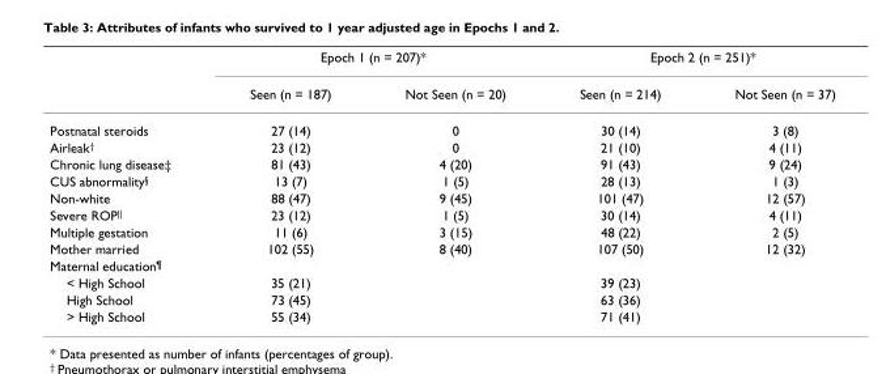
<table><thead><tr><td rowspan="2"></td><td colspan="2">Epoch 1 (n = 207)*</td><td colspan="2">Epoch 2 (n = 251)*</td></tr><tr><td>Seen (n = 187)</td><td>Not Seen (n = 20)</td><td>Seen (n = 214)</td><td>Not Seen (n = 37)</td></tr></thead><tbody><tr><td>Postnatal steroids</td><td>27 (14)</td><td>0</td><td>30 (14)</td><td>3 (8)</td></tr><tr><td>Airleak†</td><td>23 (12)</td><td>0</td><td>21 (10)</td><td>4 (11)</td></tr><tr><td>Chronic lung disease‡</td><td>81 (43)</td><td>4 (20)</td><td>91 (43)</td><td>9 (24)</td></tr><tr><td>CUS abnormality§</td><td>13 (7)</td><td>1 (5)</td><td>28 (13)</td><td>1 (3)</td></tr><tr><td>Non-white</td><td>88 (47)</td><td>9 (45)</td><td>101 (47)</td><td>12 (57)</td></tr><tr><td>Severe ROP||</td><td>23 (12)</td><td>1 (5)</td><td>30 (14)</td><td>4 (11)</td></tr><tr><td>Multiple gestation</td><td>11 (6)</td><td>3 (15)</td><td>48 (22)</td><td>2 (5)</td></tr><tr><td>Mother married</td><td>102 (55)</td><td>8 (40)</td><td>107 (50)</td><td>12 (32)</td></tr><tr><td colspan="5">Maternal education¶</td></tr><tr><td>&lt; High School</td><td>35 (21)</td><td></td><td>39 (23)</td><td></td></tr><tr><td>High School</td><td>73 (45)</td><td></td><td>63 (36)</td><td></td></tr><tr><td>&gt; High School</td><td>55 (34)</td><td></td><td>71 (41)</td><td></td></tr></tbody></table>